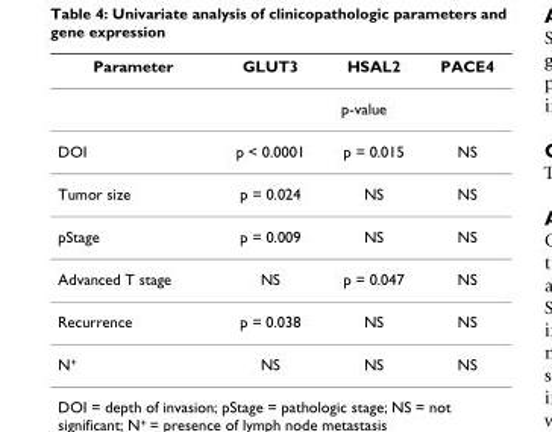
<table><thead><tr><td>Parameter</td><td>GLUT3</td><td>HSAL2</td><td>PACE4</td></tr></thead><tbody><tr><td></td><td colspan="3">p-value</td></tr><tr><td>DOI</td><td>p &lt; 0.0001</td><td>p = 0.015</td><td>NS</td></tr><tr><td>Tumor size</td><td>p = 0.024</td><td>NS</td><td>NS</td></tr><tr><td>pStage</td><td>p = 0.009</td><td>NS</td><td>NS</td></tr><tr><td>Advanced T stage</td><td>NS</td><td>p = 0.047</td><td>NS</td></tr><tr><td>Recurrence</td><td>p = 0.038</td><td>NS</td><td>NS</td></tr><tr><td>N<sup>+</sup></td><td>NS</td><td>NS</td><td>NS</td></tr></tbody></table>